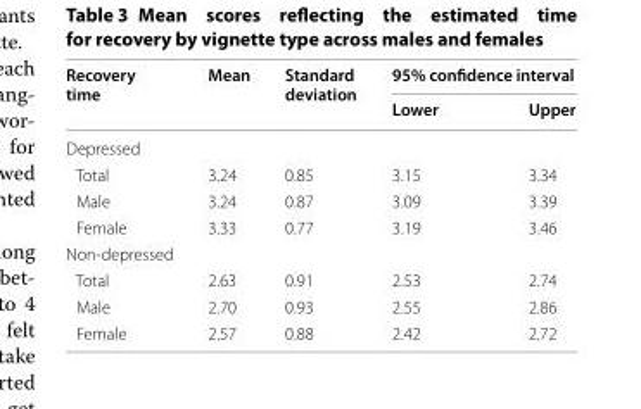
<table><thead><tr><td rowspan="2">Recovery time</td><td rowspan="2">Mean</td><td rowspan="2">Standard deviation</td><td colspan="2">95% confidence interval</td></tr><tr><td>Lower</td><td>Upper</td></tr></thead><tbody><tr><td colspan="5">Depressed</td></tr><tr><td>Total</td><td>3.24</td><td>0.85</td><td>3.15</td><td>3.34</td></tr><tr><td>Male</td><td>3.24</td><td>0.87</td><td>3.09</td><td>3.39</td></tr><tr><td>Female</td><td>3.33</td><td>0.77</td><td>3.19</td><td>3.46</td></tr><tr><td colspan="5">Non-depressed</td></tr><tr><td>Total</td><td>2.63</td><td>0.91</td><td>2.53</td><td>2.74</td></tr><tr><td>Male</td><td>2.70</td><td>0.93</td><td>2.55</td><td>2.86</td></tr><tr><td>Female</td><td>2.57</td><td>0.88</td><td>2.42</td><td>2.72</td></tr></tbody></table>